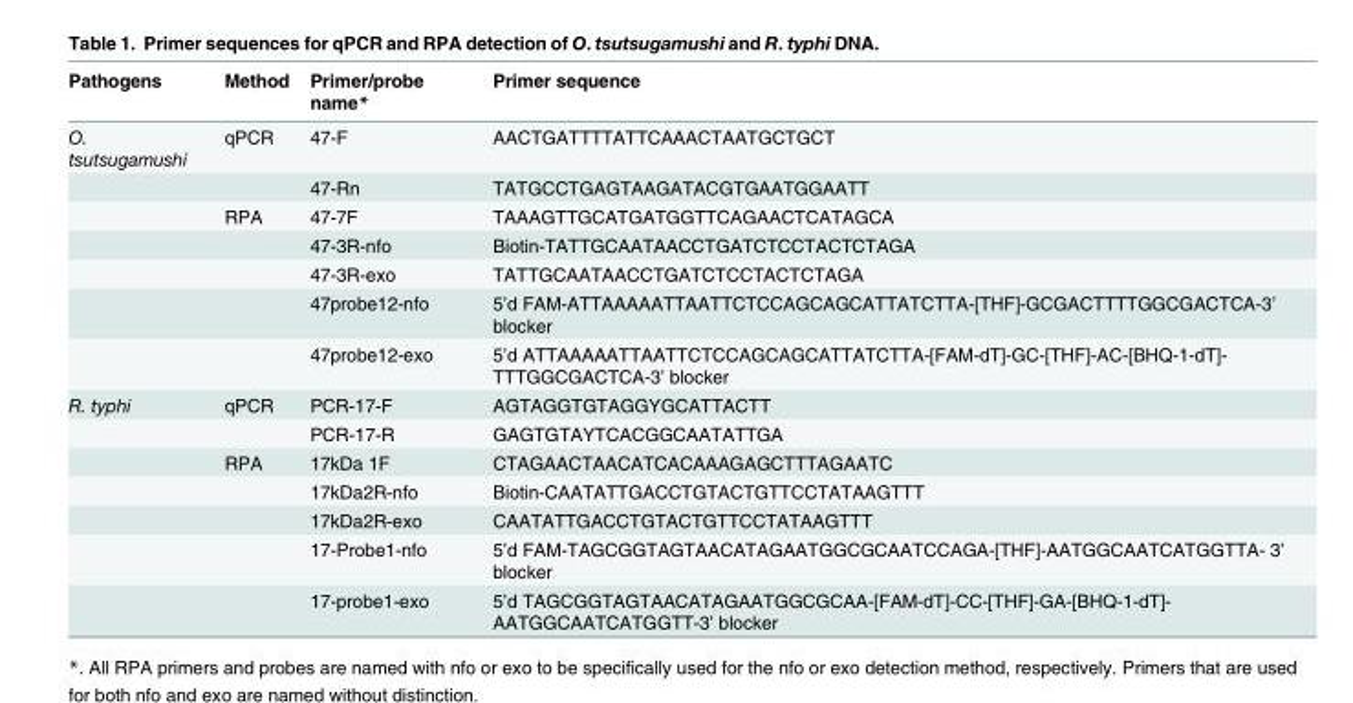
<table><thead><tr><td>Pathogens</td><td>Method</td><td>Primer/probe name*</td><td>Primer sequence</td></tr></thead><tbody><tr><td rowspan="7">O. tsutsugamushi</td><td>qPCR</td><td>47-F</td><td>AACTGATTTTATTCAAACTAATGCTGCT</td></tr><tr><td></td><td>47-Rn</td><td>TATGCCTGAGTAAGATACGTGAATGGAATT</td></tr><tr><td>RPA</td><td>47-7F</td><td>TAAAGTTGCATGATGGTTCAGAACTCATAGCA</td></tr><tr><td></td><td>47-3R-nfo</td><td>Biotin-TATTGCAATAACCTGATCTCCTACTCTAGA</td></tr><tr><td></td><td>47-3R-exo</td><td>TATTGCAATAACCTGATCTCCTACTCTAGA</td></tr><tr><td></td><td>47probe12-nfo</td><td>5’d FAM-ATTAAAAATTAATTCTCCAGCAGCATTATCTTA-[THF]-GCGACTTTTGGCGACTCA-3’ blocker</td></tr><tr><td></td><td>47probe12-exo</td><td>5’d ATTAAAAATTAATTCTCCAGCAGCATTATCTTA-[FAM-dT]-GC-[THF]-AC-[BHQ-1-dT]- TTTGGCGACTCA-3’ blocker</td></tr><tr><td rowspan="7">R. typhi</td><td>qPCR</td><td>PCR-17-F</td><td>AGTAGGTGTAGGYGCATTACTT</td></tr><tr><td></td><td>PCR-17-R</td><td>GAGTGTAYTCACGGCAATATTGA</td></tr><tr><td>RPA</td><td>17kDa 1F</td><td>CTAGAACTAACATCACAAAGAGCTTTAGAATC</td></tr><tr><td></td><td>17kDa2R-nfo</td><td>Biotin-CAATATTGACCTGTACTGTTCCTATAAGTTT</td></tr><tr><td></td><td>17kDa2R-exo</td><td>CAATATTGACCTGTACTGTTCCTATAAGTTT</td></tr><tr><td></td><td>17-Probe1-nfo</td><td>5’d FAM-TAGCGGTAGTAACATAGAATGGCGCAATCCAGA-[THF]-AATGGCAATCATGGTTA- 3’ blocker</td></tr><tr><td></td><td>17-probe1-exo</td><td>5’d TAGCGGTAGTAACATAGAATGGCGCAA-[FAM-dT]-CC-[THF]-GA-[BHQ-1-dT]- AATGGCAATCATGGTT-3’ blocker</td></tr></tbody></table>